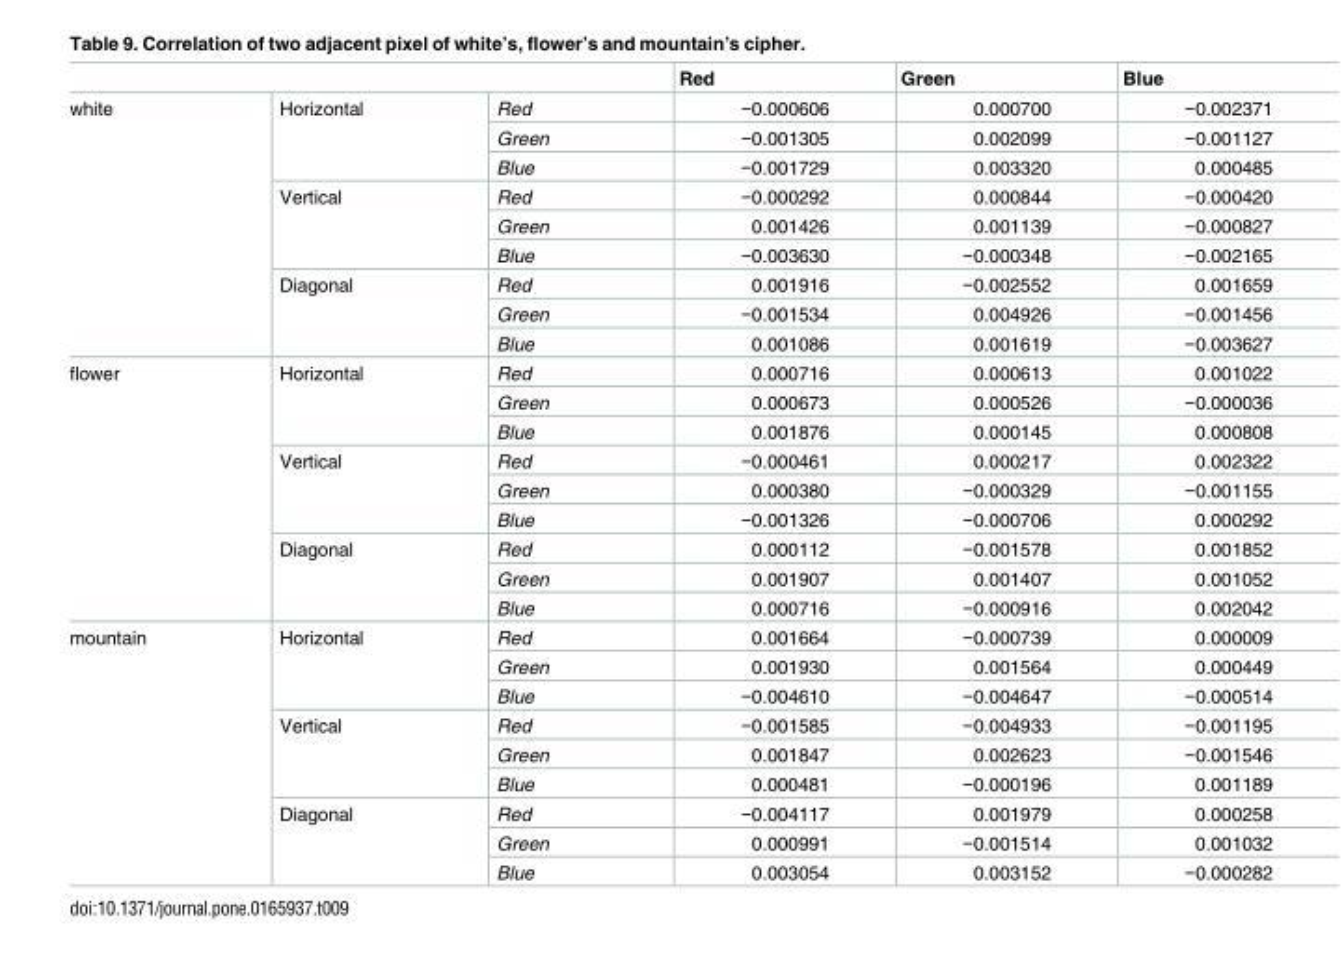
<table><thead><tr><td></td><td></td><td></td><td>Red</td><td>Green</td><td>Blue</td></tr></thead><tbody><tr><td rowspan="9">white</td><td rowspan="3">Horizontal</td><td>Red</td><td>−0.000606</td><td>0.000700</td><td>−0.002371</td></tr><tr><td>Green</td><td>−0.001305</td><td>0.002099</td><td>−0.001127</td></tr><tr><td>Blue</td><td>−0.001729</td><td>0.003320</td><td>0.000485</td></tr><tr><td rowspan="3">Vertical</td><td>Red</td><td>−0.000292</td><td>0.000844</td><td>−0.000420</td></tr><tr><td>Green</td><td>0.001426</td><td>0.001139</td><td>−0.000827</td></tr><tr><td>Blue</td><td>−0.003630</td><td>−0.000348</td><td>−0.002165</td></tr><tr><td rowspan="3">Diagonal</td><td>Red</td><td>0.001916</td><td>−0.002552</td><td>0.001659</td></tr><tr><td>Green</td><td>−0.001534</td><td>0.004926</td><td>−0.001456</td></tr><tr><td>Blue</td><td>0.001086</td><td>0.001619</td><td>−0.003627</td></tr><tr><td rowspan="9">flower</td><td rowspan="3">Horizontal</td><td>Red</td><td>0.000716</td><td>0.000613</td><td>0.001022</td></tr><tr><td>Green</td><td>0.000673</td><td>0.000526</td><td>−0.000036</td></tr><tr><td>Blue</td><td>0.001876</td><td>0.000145</td><td>0.000808</td></tr><tr><td rowspan="3">Vertical</td><td>Red</td><td>−0.000461</td><td>0.000217</td><td>0.002322</td></tr><tr><td>Green</td><td>0.000380</td><td>−0.000329</td><td>−0.001155</td></tr><tr><td>Blue</td><td>−0.001326</td><td>−0.000706</td><td>0.000292</td></tr><tr><td rowspan="3">Diagonal</td><td>Red</td><td>0.000112</td><td>−0.001578</td><td>0.001852</td></tr><tr><td>Green</td><td>0.001907</td><td>0.001407</td><td>0.001052</td></tr><tr><td>Blue</td><td>0.000716</td><td>−0.000916</td><td>0.002042</td></tr><tr><td rowspan="9">mountain</td><td rowspan="3">Horizontal</td><td>Red</td><td>0.001664</td><td>−0.000739</td><td>0.000009</td></tr><tr><td>Green</td><td>0.001930</td><td>0.001564</td><td>0.000449</td></tr><tr><td>Blue</td><td>−0.004610</td><td>−0.004647</td><td>−0.000514</td></tr><tr><td rowspan="3">Vertical</td><td>Red</td><td>−0.001585</td><td>−0.004933</td><td>−0.001195</td></tr><tr><td>Green</td><td>0.001847</td><td>0.002623</td><td>−0.001546</td></tr><tr><td>Blue</td><td>0.000481</td><td>−0.000196</td><td>0.001189</td></tr><tr><td rowspan="3">Diagonal</td><td>Red</td><td>−0.004117</td><td>0.001979</td><td>0.000258</td></tr><tr><td>Green</td><td>0.000991</td><td>−0.001514</td><td>0.001032</td></tr><tr><td>Blue</td><td>0.003054</td><td>0.003152</td><td>−0.000282</td></tr></tbody></table>